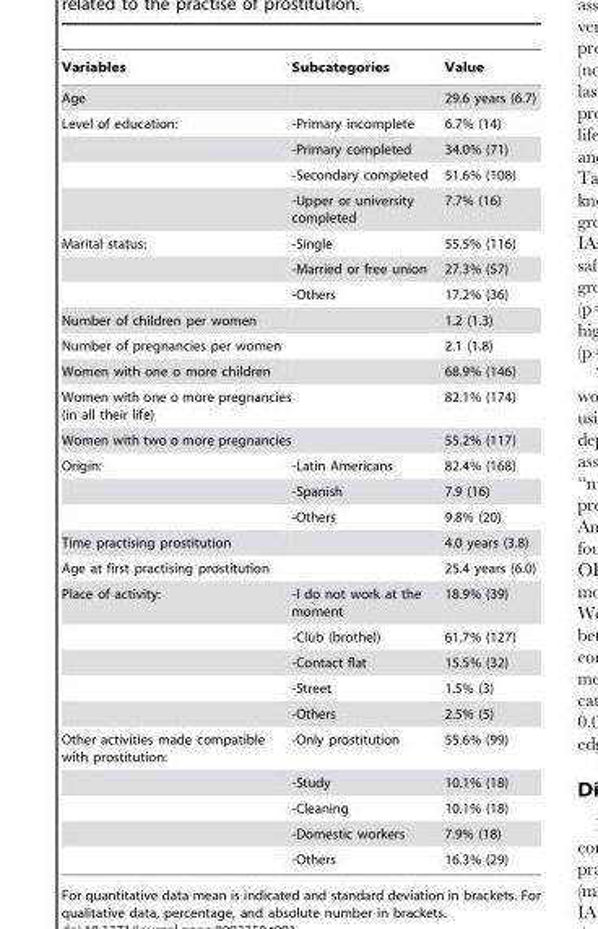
<table><thead><tr><td>Variables</td><td>Subcategories</td><td>Value</td></tr></thead><tbody><tr><td>Age</td><td></td><td>29.6 years (6.7)</td></tr><tr><td rowspan="4">Level of education:</td><td>-Primary incomplete</td><td>6.7% (14)</td></tr><tr><td>-Primary completed</td><td>34.0% (71)</td></tr><tr><td>-Secondary completed</td><td>51.6% (108)</td></tr><tr><td>-Upper or university completed</td><td>7.7% (16)</td></tr><tr><td rowspan="3">Marital status:</td><td>-Single</td><td>55.5% (116)</td></tr><tr><td>-Married or free union</td><td>27.3% (57)</td></tr><tr><td>-Others</td><td>17.2% (36)</td></tr><tr><td>Number of children per women</td><td></td><td>1.2 (1.3)</td></tr><tr><td>Number of pregnancies per women</td><td></td><td>2.1 (1.8)</td></tr><tr><td>Women with one o more children</td><td></td><td>68.9% (146)</td></tr><tr><td>Women with one o more pregnancies (in all their life)</td><td></td><td>82.1% (174)</td></tr><tr><td>Women with two o more pregnancies</td><td></td><td>55.2% (117)</td></tr><tr><td rowspan="3">Origin:</td><td>-Latin Americans</td><td>82.4% (168)</td></tr><tr><td>-Spanish</td><td>7.9 (16)</td></tr><tr><td>-Others</td><td>9.8% (20)</td></tr><tr><td>Time practising prostitution</td><td></td><td>4.0 years (3.8)</td></tr><tr><td>Age at first practising prostitution</td><td></td><td>25.4 years (6.0)</td></tr><tr><td rowspan="5">Place of activity:</td><td>-I do not work at the moment</td><td>18.9% (39)</td></tr><tr><td>-Club (brothel)</td><td>61.7% (127)</td></tr><tr><td>-Contact flat</td><td>15.5% (32)</td></tr><tr><td>-Street</td><td>1.5% (3)</td></tr><tr><td>-Others</td><td>2.5% (5)</td></tr><tr><td rowspan="5">Other activities made compatible with prostitution:</td><td>-Only prostitution</td><td>55.6% (99)</td></tr><tr><td>-Study</td><td>10.1% (18)</td></tr><tr><td>-Cleaning</td><td>10.1% (18)</td></tr><tr><td>-Domestic workers</td><td>7.9% (18)</td></tr><tr><td>-Others</td><td>16.3% (29)</td></tr></tbody></table>